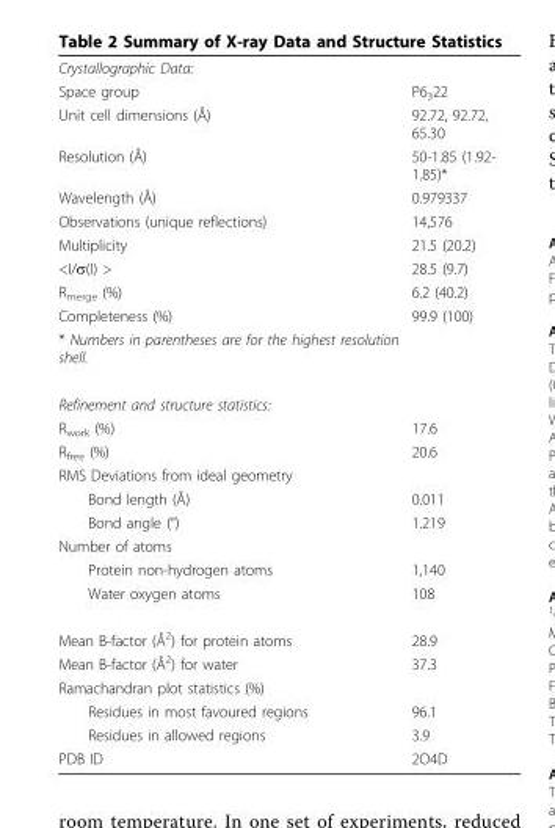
<table><tbody><tr><td colspan="2">Crystallographic Data:</td></tr><tr><td>Space group</td><td>P6<sub>3</sub>22</td></tr><tr><td>Unit cell dimensions (Å)</td><td>92.72, 92.72, 65.30</td></tr><tr><td>Resolution (Å)</td><td>50-1.85 (1.92- 1.85)*</td></tr><tr><td>Wavelength (Å)</td><td>0.979337</td></tr><tr><td>Observations (unique reflections)</td><td>14,576</td></tr><tr><td>Multiplicity</td><td>21.5 (20.2)</td></tr><tr><td>&lt;I/σ(I) &gt;</td><td>28.5 (9.7)</td></tr><tr><td>R<sub>merge</sub> (%)</td><td>6.2 (40.2)</td></tr><tr><td>Completeness (%)</td><td>99.9 (100)</td></tr><tr><td colspan="2">* Numbers in parentheses are for the highest resolution shell.</td></tr><tr><td colspan="2">Refinement and structure statistics:</td></tr><tr><td>R<sub>work</sub> (%)</td><td>17.6</td></tr><tr><td>R<sub>free</sub> (%)</td><td>20.6</td></tr><tr><td colspan="2">RMS Deviations from ideal geometry</td></tr><tr><td>Bond length (Å)</td><td>0.011</td></tr><tr><td>Bond angle (°)</td><td>1.219</td></tr><tr><td colspan="2">Number of atoms</td></tr><tr><td>Protein non-hydrogen atoms</td><td>1,140</td></tr><tr><td>Water oxygen atoms</td><td>108</td></tr><tr><td>Mean B-factor (Å<sup>2</sup>) for protein atoms</td><td>28.9</td></tr><tr><td>Mean B-factor (Å<sup>2</sup>) for water</td><td>37.3</td></tr><tr><td colspan="2">Ramachandran plot statistics (%)</td></tr><tr><td>Residues in most favoured regions</td><td>96.1</td></tr><tr><td>Residues in allowed regions</td><td>3.9</td></tr><tr><td>PDB ID</td><td>2O4D</td></tr></tbody></table>